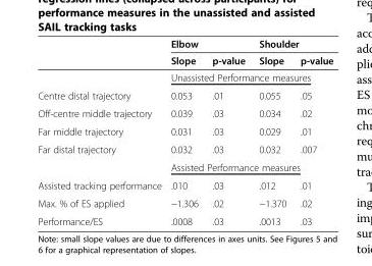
<table><thead><tr><td rowspan="2"></td><td rowspan="2">Elbow Slope</td><td rowspan="2">p-value</td><td rowspan="2">Shoulder Slope</td><td rowspan="2">p-value</td></tr><tr></tr></thead><tbody><tr><td></td><td colspan="4">Unassisted Performance measures</td></tr><tr><td>Centre distal trajectory</td><td>0.053</td><td>.01</td><td>0.055</td><td>.05</td></tr><tr><td>Off-centre middle trajectory</td><td>0.039</td><td>.03</td><td>0.034</td><td>.02</td></tr><tr><td>Far middle trajectory</td><td>0.031</td><td>.03</td><td>0.029</td><td>.01</td></tr><tr><td rowspan="2">Far distal trajectory</td><td>0.032</td><td>.03</td><td>0.032</td><td>.007</td></tr><tr><td colspan="4">Assisted Performance measures</td></tr><tr><td>Assisted tracking performance</td><td>.010</td><td>.03</td><td>.012</td><td>.01</td></tr><tr><td>Max. % of ES applied</td><td>−1.306</td><td>.02</td><td>−1.370</td><td>.02</td></tr><tr><td>Performance/ES</td><td>.0008</td><td>.03</td><td>.0013</td><td>.03</td></tr></tbody></table>